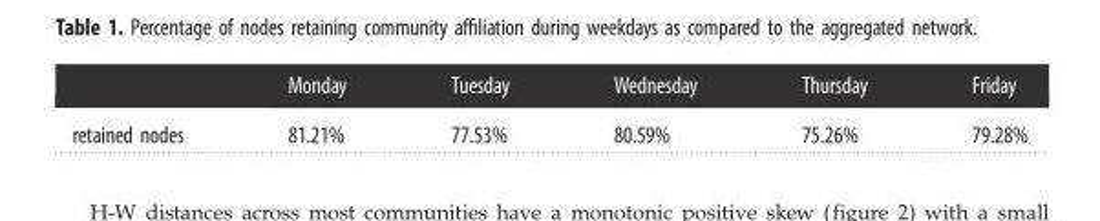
<table><thead><tr><td></td><td>Monday</td><td>Tuesday</td><td>Wednesday</td><td>Thursday</td><td>Friday</td></tr></thead><tbody><tr><td>retained nodes</td><td>81.21%</td><td>77.53%</td><td>80.59%</td><td>75.26%</td><td>79.28%</td></tr></tbody></table>